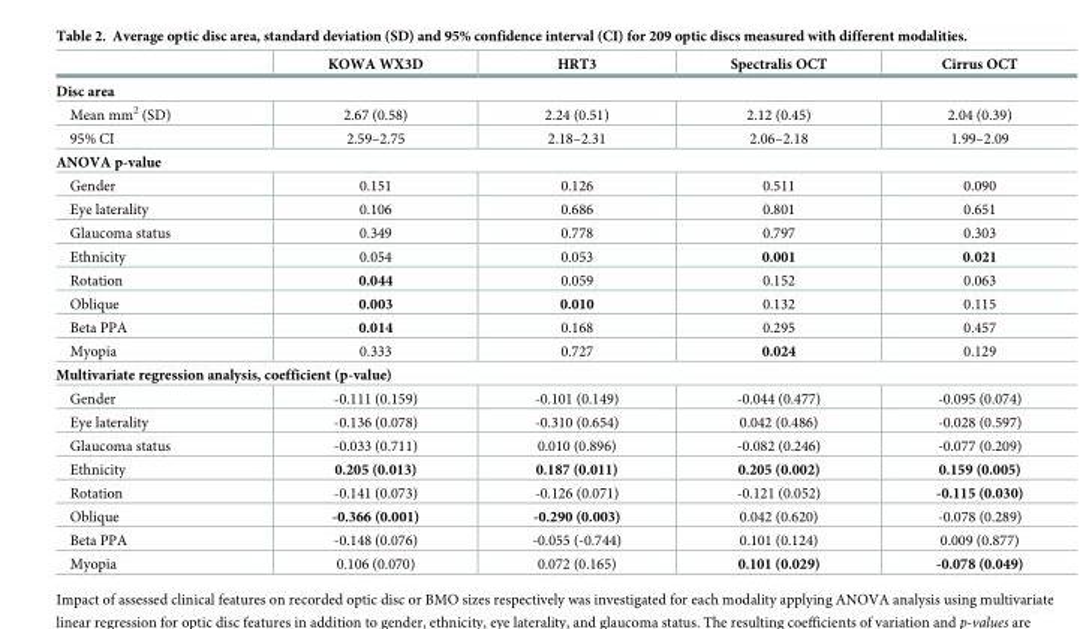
<table><thead><tr><td></td><td>KOWA WX3D</td><td>HRT3</td><td>Spectralis OCT</td><td>Cirrus OCT</td></tr></thead><tbody><tr><td colspan="5">Disc area</td></tr><tr><td>Mean mm<sup>2</sup> (SD)</td><td>2.67 (0.58)</td><td>2.24 (0.51)</td><td>2.12 (0.45)</td><td>2.04 (0.39)</td></tr><tr><td>95% CI</td><td>2.59–2.75</td><td>2.18–2.31</td><td>2.06–2.18</td><td>1.99–2.09</td></tr><tr><td colspan="5">ANOVA p-value</td></tr><tr><td>Gender</td><td>0.151</td><td>0.126</td><td>0.511</td><td>0.090</td></tr><tr><td>Eye laterality</td><td>0.106</td><td>0.686</td><td>0.801</td><td>0.651</td></tr><tr><td>Glaucoma status</td><td>0.349</td><td>0.778</td><td>0.797</td><td>0.303</td></tr><tr><td>Ethnicity</td><td>0.054</td><td>0.053</td><td>0.001</td><td>0.021</td></tr><tr><td>Rotation</td><td>0.044</td><td>0.059</td><td>0.152</td><td>0.063</td></tr><tr><td>Oblique</td><td>0.003</td><td>0.010</td><td>0.132</td><td>0.115</td></tr><tr><td>Beta PPA</td><td>0.014</td><td>0.168</td><td>0.295</td><td>0.457</td></tr><tr><td>Myopia</td><td>0.333</td><td>0.727</td><td>0.024</td><td>0.129</td></tr><tr><td colspan="5">Multivariate regression analysis, coefficient (p-value)</td></tr><tr><td>Gender</td><td>-0.111 (0.159)</td><td>-0.101 (0.149)</td><td>-0.044 (0.477)</td><td>-0.095 (0.074)</td></tr><tr><td>Eye laterality</td><td>-0.136 (0.078)</td><td>-0.310 (0.654)</td><td>0.042 (0.486)</td><td>-0.028 (0.597)</td></tr><tr><td>Glaucoma status</td><td>-0.033 (0.711)</td><td>0.010 (0.896)</td><td>-0.082 (0.246)</td><td>-0.077 (0.209)</td></tr><tr><td>Ethnicity</td><td>0.205 (0.013)</td><td>0.187 (0.011)</td><td>0.205 (0.002)</td><td>0.159 (0.005)</td></tr><tr><td>Rotation</td><td>-0.141 (0.073)</td><td>-0.126 (0.071)</td><td>-0.121 (0.052)</td><td>-0.115 (0.030)</td></tr><tr><td>Oblique</td><td>-0.366 (0.001)</td><td>-0.290 (0.003)</td><td>0.042 (0.620)</td><td>-0.078 (0.289)</td></tr><tr><td>Beta PPA</td><td>-0.148 (0.076)</td><td>-0.055 (-0.744)</td><td>0.101 (0.124)</td><td>0.009 (0.877)</td></tr><tr><td>Myopia</td><td>0.106 (0.070)</td><td>0.072 (0.165)</td><td>0.101 (0.029)</td><td>-0.078 (0.049)</td></tr></tbody></table>